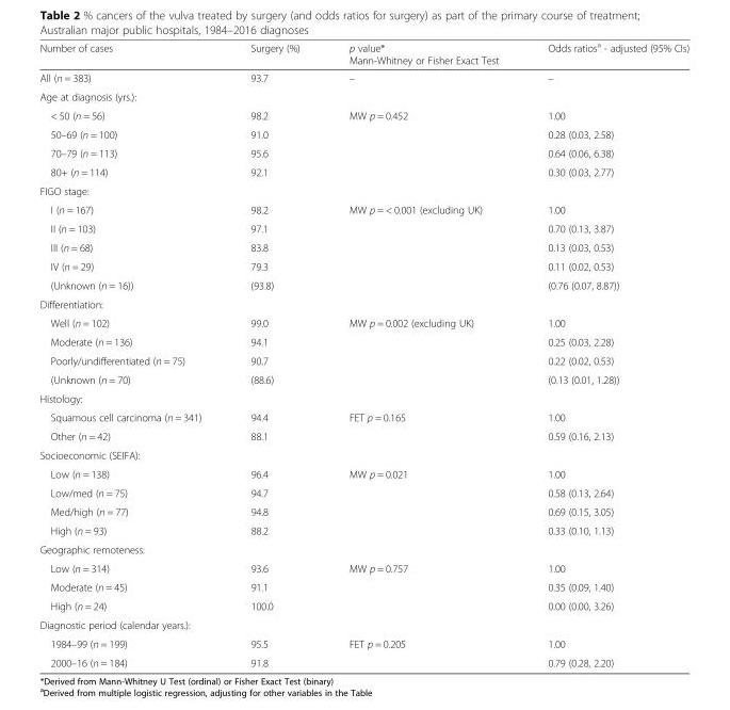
<table><thead><tr><td>Number of cases</td><td>Surgery (%)</td><td>p value* Mann-Whitney or Fisher Exact Test</td><td>Odds ratios<sup>a</sup> - adjusted (95% CIs)</td></tr></thead><tbody><tr><td>All (n = 383)</td><td>93.7</td><td>–</td><td>–</td></tr><tr><td colspan="4">Age at diagnosis (yrs.):</td></tr><tr><td>&lt; 50 (n = 56)</td><td>98.2</td><td rowspan="4">MW p = 0.452</td><td>1.00</td></tr><tr><td>50–69 (n = 100)</td><td>91.0</td><td>0.28 (0.03, 2.58)</td></tr><tr><td>70–79 (n = 113)</td><td>95.6</td><td>0.64 (0.06, 6.38)</td></tr><tr><td>80+ (n = 114)</td><td>92.1</td><td>0.30 (0.03, 2.77)</td></tr><tr><td colspan="4">FIGO stage:</td></tr><tr><td>I (n = 167)</td><td>98.2</td><td rowspan="5">MW p = &lt; 0.001 (excluding UK)</td><td>1.00</td></tr><tr><td>II (n = 103)</td><td>97.1</td><td>0.70 (0.13, 3.87)</td></tr><tr><td>III (n = 68)</td><td>83.8</td><td>0.13 (0.03, 0.53)</td></tr><tr><td>IV (n = 29)</td><td>79.3</td><td>0.11 (0.02, 0.53)</td></tr><tr><td>(Unknown (n = 16))</td><td>(93.8)</td><td>(0.76 (0.07, 8.87))</td></tr><tr><td colspan="4">Differentiation:</td></tr><tr><td>Well (n = 102)</td><td>99.0</td><td rowspan="4">MW p = 0.002 (excluding UK)</td><td>1.00</td></tr><tr><td>Moderate (n = 136)</td><td>94.1</td><td>0.25 (0.03, 2.28)</td></tr><tr><td>Poorly/undifferentiated (n = 75)</td><td>90.7</td><td>0.22 (0.02, 0.53)</td></tr><tr><td>(Unknown (n = 70)</td><td>(88.6)</td><td>(0.13 (0.01, 1.28))</td></tr><tr><td colspan="4">Histology:</td></tr><tr><td>Squamous cell carcinoma (n = 341)</td><td>94.4</td><td rowspan="2">FET p = 0.165</td><td>1.00</td></tr><tr><td>Other (n = 42)</td><td>88.1</td><td>0.59 (0.16, 2.13)</td></tr><tr><td colspan="4">Socioeconomic (SEIFA):</td></tr><tr><td>Low (n = 138)</td><td>96.4</td><td rowspan="4">MW p = 0.021</td><td>1.00</td></tr><tr><td>Low/med (n = 75)</td><td>94.7</td><td>0.58 (0.13, 2.64)</td></tr><tr><td>Med/high (n = 77)</td><td>94.8</td><td>0.69 (0.15, 3.05)</td></tr><tr><td>High (n = 93)</td><td>88.2</td><td>0.33 (0.10, 1.13)</td></tr><tr><td colspan="4">Geographic remoteness:</td></tr><tr><td>Low (n = 314)</td><td>93.6</td><td rowspan="3">MW p = 0.757</td><td>1.00</td></tr><tr><td>Moderate (n = 45)</td><td>91.1</td><td>0.35 (0.09, 1.40)</td></tr><tr><td>High (n = 24)</td><td>100.0</td><td>0.00 (0.00, 3.26)</td></tr><tr><td colspan="4">Diagnostic period (calendar years.):</td></tr><tr><td>1984–99 (n = 199)</td><td>95.5</td><td rowspan="2">FET p = 0.205</td><td>1.00</td></tr><tr><td>2000–16 (n = 184)</td><td>91.8</td><td>0.79 (0.28, 2.20)</td></tr></tbody></table>